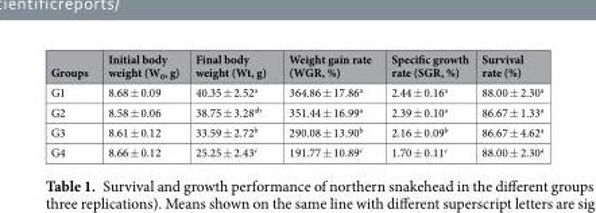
<table><thead><tr><td>Groups</td><td>Initial body weight (W<sub>0</sub>, g)</td><td>Final body weight (Wt, g)</td><td>Weight gain rate (WGR, %)</td><td>Specific growth rate (SGR, %)</td><td>Survival rate (%)</td></tr></thead><tbody><tr><td>G1</td><td>8.68 ± 0.09</td><td>40.35 ± 2.52<sup>a</sup></td><td>364.86 ± 17.86<sup>a</sup></td><td>2.44 ± 0.16<sup>a</sup></td><td>88.00 ± 2.30<sup>a</sup></td></tr><tr><td>G2</td><td>8.58 ± 0.06</td><td>38.75 ± 3.28<sup>ab</sup></td><td>351.44 ± 16.99<sup>a</sup></td><td>2.39 ± 0.10<sup>a</sup></td><td>86.67 ± 1.33<sup>a</sup></td></tr><tr><td>G3</td><td>8.61 ± 0.12</td><td>33.59 ± 2.72<sup>b</sup></td><td>290.08 ± 13.90<sup>b</sup></td><td>2.16 ± 0.09<sup>b</sup></td><td>86.67 ± 4.62<sup>a</sup></td></tr><tr><td>G4</td><td>8.66 ± 0.12</td><td>25.25 ± 2.43<sup>c</sup></td><td>191.77 ± 10.89<sup>c</sup></td><td>1.70 ± 0.11<sup>c</sup></td><td>88.00 ± 2.30<sup>a</sup></td></tr></tbody></table>